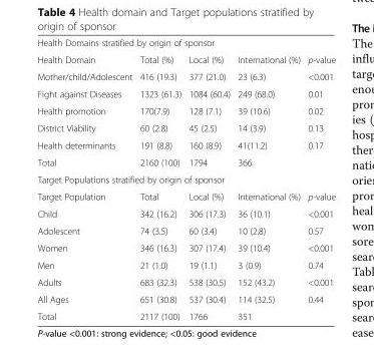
<table><tbody><tr><td colspan="5">Health Domains stratified by origin of sponsor</td></tr><tr><td>Health Domain</td><td>Total (%)</td><td>Local (%)</td><td>International (%)</td><td>p-value</td></tr><tr><td>Mother/child/Adolescent</td><td>416 (19.3)</td><td>377 (21.0)</td><td>23 (6.3)</td><td>&lt;0.001</td></tr><tr><td>Fight against Diseases</td><td>1323 (61.3)</td><td>1084 (60.4)</td><td>249 (68.0)</td><td>0.01</td></tr><tr><td>Health promotion</td><td>170(7.9)</td><td>128 (7.1)</td><td>39 (10.6)</td><td>0.02</td></tr><tr><td>District Viability</td><td>60 (2.8)</td><td>45 (2.5)</td><td>14 (3.9)</td><td>0.13</td></tr><tr><td>Health determinants</td><td>191 (8.8)</td><td>160 (8.9)</td><td>41(11.2)</td><td>0.17</td></tr><tr><td>Total</td><td>2160 (100)</td><td>1794</td><td>366</td><td></td></tr><tr><td colspan="5">Target Populations stratified by origin of sponsor</td></tr><tr><td>Target Population</td><td>Total</td><td>Local (%)</td><td>International (%)</td><td>p-value</td></tr><tr><td>Child</td><td>342 (16.2)</td><td>306 (17.3)</td><td>36 (10.1)</td><td>&lt;0.001</td></tr><tr><td>Adolescent</td><td>74 (3.5)</td><td>60 (3.4)</td><td>10 (2.8)</td><td>0.57</td></tr><tr><td>Women</td><td>346 (16.3)</td><td>307 (17.4)</td><td>39 (10.4)</td><td>&lt;0.001</td></tr><tr><td>Men</td><td>21 (1.0)</td><td>19 (1.1)</td><td>3 (0.9)</td><td>0.74</td></tr><tr><td>Adults</td><td>683 (32.3)</td><td>538 (30.5)</td><td>152 (43.2)</td><td>&lt;0.001</td></tr><tr><td>All Ages</td><td>651 (30.8)</td><td>537 (30.4)</td><td>114 (32.5)</td><td>0.44</td></tr><tr><td>Total</td><td>2117 (100)</td><td>1766</td><td>351</td><td></td></tr></tbody></table>